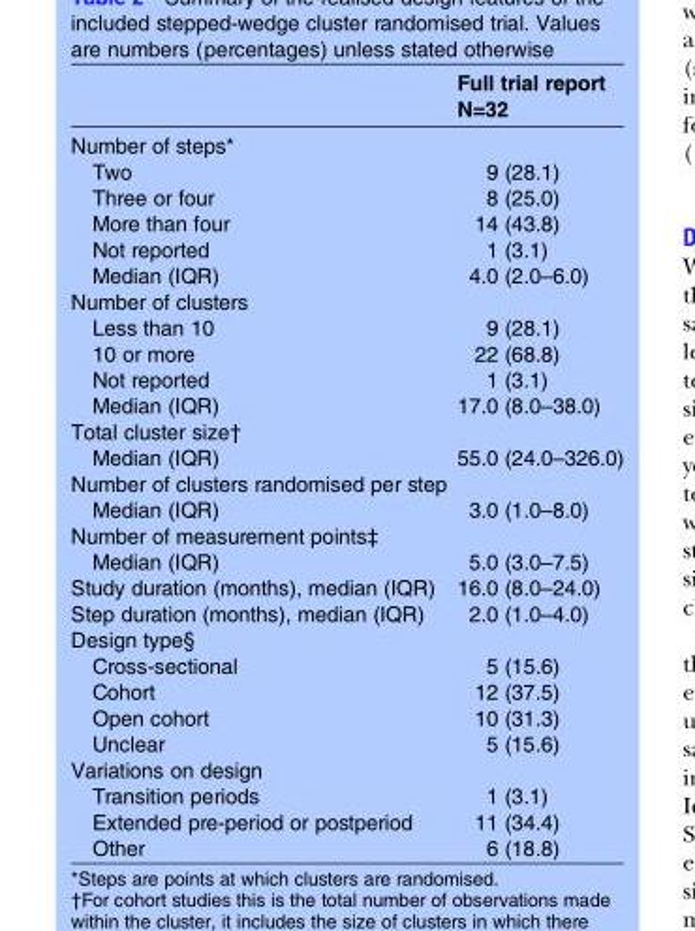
<table><thead><tr><td></td><td>Full trial report N=32</td></tr></thead><tbody><tr><td colspan="2">Number of steps*</td></tr><tr><td>Two</td><td>9 (28.1)</td></tr><tr><td>Three or four</td><td>8 (25.0)</td></tr><tr><td>More than four</td><td>14 (43.8)</td></tr><tr><td>Not reported</td><td>1 (3.1)</td></tr><tr><td>Median (IQR)</td><td>4.0 (2.0–6.0)</td></tr><tr><td colspan="2">Number of clusters</td></tr><tr><td>Less than 10</td><td>9 (28.1)</td></tr><tr><td>10 or more</td><td>22 (68.8)</td></tr><tr><td>Not reported</td><td>1 (3.1)</td></tr><tr><td>Median (IQR)</td><td>17.0 (8.0–38.0)</td></tr><tr><td colspan="2">Total cluster size†</td></tr><tr><td>Median (IQR)</td><td>55.0 (24.0–326.0)</td></tr><tr><td colspan="2">Number of clusters randomised per step</td></tr><tr><td>Median (IQR)</td><td>3.0 (1.0–8.0)</td></tr><tr><td colspan="2">Number of measurement points‡</td></tr><tr><td>Median (IQR)</td><td>5.0 (3.0–7.5)</td></tr><tr><td>Study duration (months), median (IQR)</td><td>16.0 (8.0–24.0)</td></tr><tr><td>Step duration (months), median (IQR)</td><td>2.0 (1.0–4.0)</td></tr><tr><td colspan="2">Design type§</td></tr><tr><td>Cross-sectional</td><td>5 (15.6)</td></tr><tr><td>Cohort</td><td>12 (37.5)</td></tr><tr><td>Open cohort</td><td>10 (31.3)</td></tr><tr><td>Unclear</td><td>5 (15.6)</td></tr><tr><td colspan="2">Variations on design</td></tr><tr><td>Transition periods</td><td>1 (3.1)</td></tr><tr><td>Extended pre-period or postperiod</td><td>11 (34.4)</td></tr><tr><td>Other</td><td>6 (18.8)</td></tr></tbody></table>